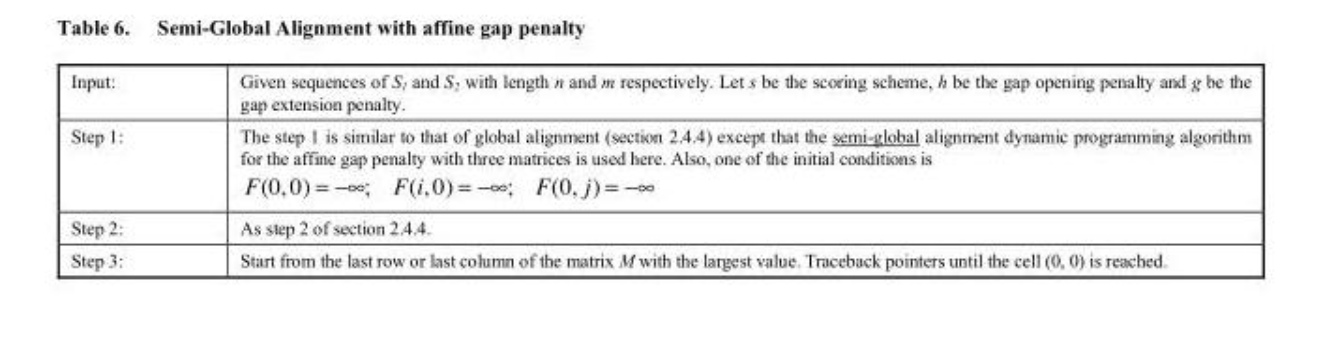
<table><tbody><tr><td>Input:</td><td>Given sequences of S<sub>1</sub> and S<sub>2</sub> with length n and m respectively. Let s be the scoring scheme, h be the gap opening penalty and g be the gap extension penalty.</td></tr><tr><td>Step 1:</td><td>The step 1 is similar to that of global alignment (section 2.4.4) except that the semi-global alignment dynamic programming algorithm for the affine gap penalty with three matrices is used here. Also, one of the initial conditions is F(0,0) = ��; F(i,0) = ��; F(0, j) = ��</td></tr><tr><td>Step 2:</td><td>As step 2 of section 2.4.4.</td></tr><tr><td>Step 3:</td><td>Start from the last row or last column of the matrix M with the largest value. Traceback pointers until the cell (0, 0) is reached.</td></tr></tbody></table>